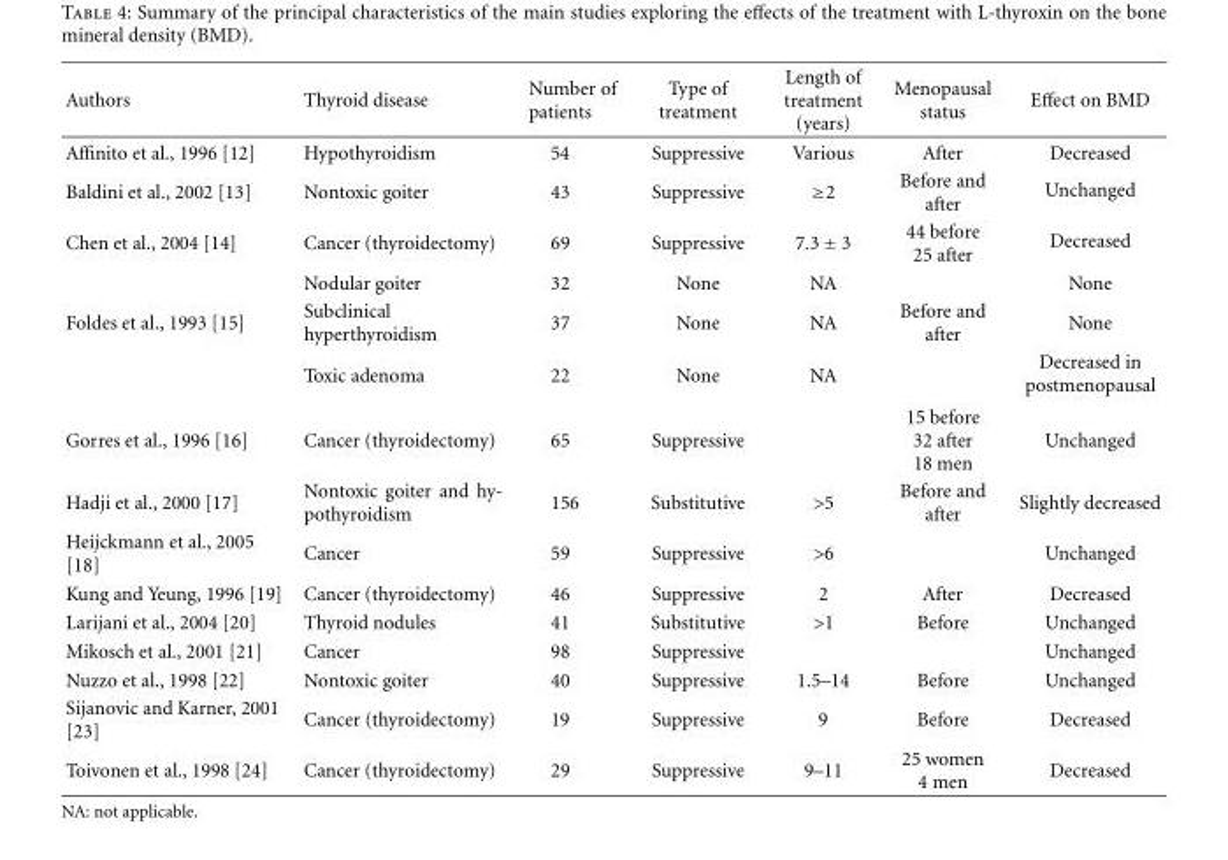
<table><thead><tr><td>Authors</td><td>Thyroid disease</td><td>Number of patients</td><td>Type of treatment</td><td>Length of treatment (years)</td><td>Menopausal status</td><td>Effect on BMD</td></tr></thead><tbody><tr><td>Affinito et al., 1996 [12]</td><td>Hypothyroidism</td><td>54</td><td>Suppressive</td><td>Various</td><td>After</td><td>Decreased</td></tr><tr><td>Baldini et al., 2002 [13]</td><td>Nontoxic goiter</td><td>43</td><td>Suppressive</td><td>≥2</td><td>Before and after</td><td>Unchanged</td></tr><tr><td rowspan="2">Chen et al., 2004 [14]</td><td>Cancer (thyroidectomy)</td><td>69</td><td>Suppressive</td><td>7.3 ± 3</td><td>44 before 25 after</td><td>Decreased</td></tr><tr><td>Nodular goiter</td><td>32</td><td>None</td><td>NA</td><td></td><td>None</td></tr><tr><td rowspan="2">Foldes et al., 1993 [15]</td><td>Subclinical hyperthyroidism</td><td>37</td><td>None</td><td>NA</td><td>Before and after</td><td>None</td></tr><tr><td>Toxic adenoma</td><td>22</td><td>None</td><td>NA</td><td></td><td>Decreased in postmenopausal</td></tr><tr><td>Gorres et al., 1996 [16]</td><td>Cancer (thyroidectomy)</td><td>65</td><td>Suppressive</td><td></td><td>15 before 32 after 18 men</td><td>Unchanged</td></tr><tr><td>Hadji et al., 2000 [17]</td><td>Nontoxic goiter and hy- pothyroidism</td><td>156</td><td>Substitutive</td><td>&gt;5</td><td>Before and after</td><td>Slightly decreased</td></tr><tr><td>Heijckmann et al., 2005 [18]</td><td>Cancer</td><td>59</td><td>Suppressive</td><td>&gt;6</td><td></td><td>Unchanged</td></tr><tr><td>Kung and Yeung, 1996 [19]</td><td>Cancer (thyroidectomy)</td><td>46</td><td>Suppressive</td><td>2</td><td>After</td><td>Decreased</td></tr><tr><td>Larijani et al., 2004 [20]</td><td>Thyroid nodules</td><td>41</td><td>Substitutive</td><td>&gt;1</td><td>Before</td><td>Unchanged</td></tr><tr><td>Mikosch et al., 2001 [21]</td><td>Cancer</td><td>98</td><td>Suppressive</td><td></td><td></td><td>Unchanged</td></tr><tr><td>Nuzzo et al., 1998 [22]</td><td>Nontoxic goiter</td><td>40</td><td>Suppressive</td><td>1.5–14</td><td>Before</td><td>Unchanged</td></tr><tr><td>Sijanovic and Karner, 2001 [23]</td><td>Cancer (thyroidectomy)</td><td>19</td><td>Suppressive</td><td>9</td><td>Before</td><td>Decreased</td></tr><tr><td>Toivonen et al., 1998 [24]</td><td>Cancer (thyroidectomy)</td><td>29</td><td>Suppressive</td><td>9–11</td><td>25 women 4 men</td><td>Decreased</td></tr></tbody></table>